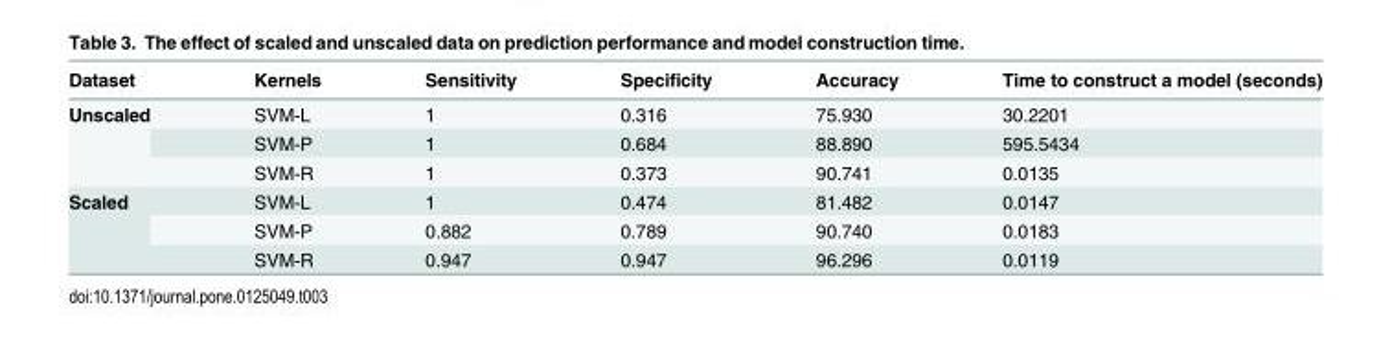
<table><thead><tr><td>Dataset</td><td>Kernels</td><td>Sensitivity</td><td>Specificity</td><td>Accuracy</td><td>Time to construct a model (seconds)</td></tr></thead><tbody><tr><td rowspan="3">Unscaled</td><td>SVM-L</td><td>1</td><td>0.316</td><td>75.930</td><td>30.2201</td></tr><tr><td>SVM-P</td><td>1</td><td>0.684</td><td>88.890</td><td>595.5434</td></tr><tr><td>SVM-R</td><td>1</td><td>0.373</td><td>90.741</td><td>0.0135</td></tr><tr><td rowspan="3">Scaled</td><td>SVM-L</td><td>1</td><td>0.474</td><td>81.482</td><td>0.0147</td></tr><tr><td>SVM-P</td><td>0.882</td><td>0.789</td><td>90.740</td><td>0.0183</td></tr><tr><td>SVM-R</td><td>0.947</td><td>0.947</td><td>96.296</td><td>0.0119</td></tr></tbody></table>